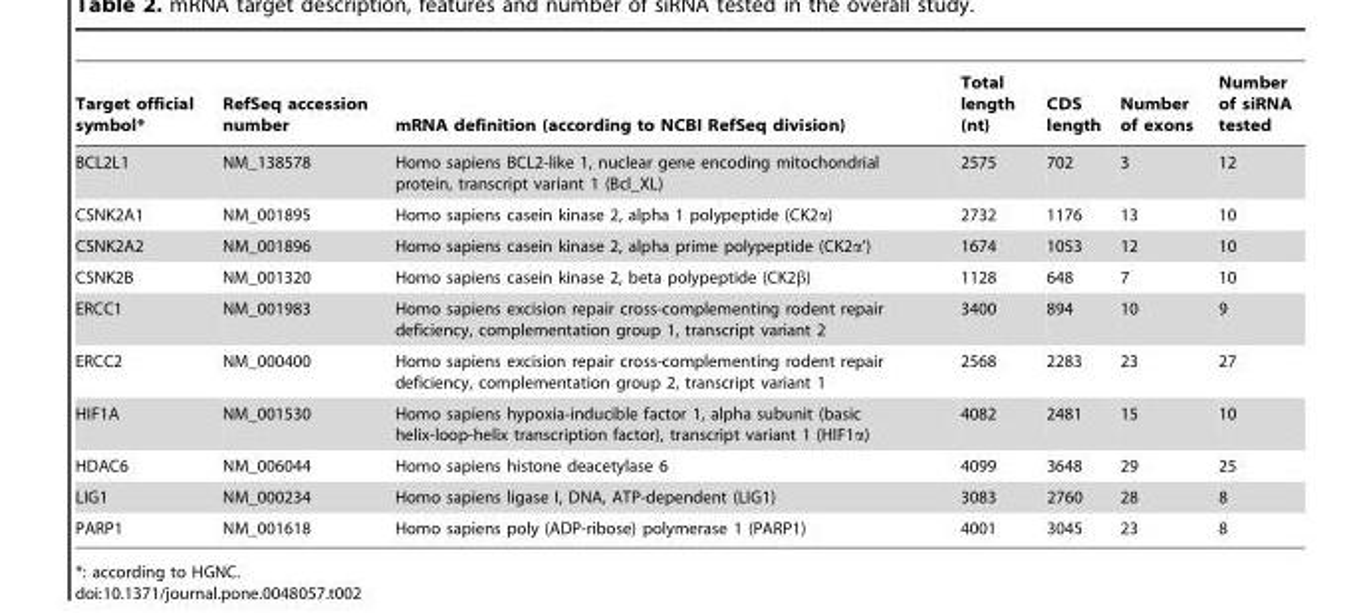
<table><thead><tr><td>Target official symbol*</td><td>RefSeq accession number</td><td>mRNA definition (according to NCBI RefSeq division)</td><td>Total length (nt)</td><td>CDS length</td><td>Number of exons</td><td>Number of siRNA tested</td></tr></thead><tbody><tr><td>BCL2L1</td><td>NM_138578</td><td>Homo sapiens BCL2-like 1, nuclear gene encoding mitochondrial protein, transcript variant 1 (Bcl_XL)</td><td>2575</td><td>702</td><td>3</td><td>12</td></tr><tr><td>CSNK2A1</td><td>NM_001895</td><td>Homo sapiens casein kinase 2, alpha 1 polypeptide (CK2α)</td><td>2732</td><td>1176</td><td>13</td><td>10</td></tr><tr><td>CSNK2A2</td><td>NM_001896</td><td>Homo sapiens casein kinase 2, alpha prime polypeptide (CK2α’)</td><td>1674</td><td>1053</td><td>12</td><td>10</td></tr><tr><td>CSNK2B</td><td>NM_001320</td><td>Homo sapiens casein kinase 2, beta polypeptide (CK2β)</td><td>1128</td><td>648</td><td>7</td><td>10</td></tr><tr><td>ERCC1</td><td>NM_001983</td><td>Homo sapiens excision repair cross-complementing rodent repair deficiency, complementation group 1, transcript variant 2</td><td>3400</td><td>894</td><td>10</td><td>9</td></tr><tr><td>ERCC2</td><td>NM_000400</td><td>Homo sapiens excision repair cross-complementing rodent repair deficiency, complementation group 2, transcript variant 1</td><td>2568</td><td>2283</td><td>23</td><td>27</td></tr><tr><td>HIF1A</td><td>NM_001530</td><td>Homo sapiens hypoxia-inducible factor 1, alpha subunit (basic helix-loop-helix transcription factor), transcript variant 1 (HIF1α)</td><td>4082</td><td>2481</td><td>15</td><td>10</td></tr><tr><td>HDAC6</td><td>NM_006044</td><td>Homo sapiens histone deacetylase 6</td><td>4099</td><td>3648</td><td>29</td><td>25</td></tr><tr><td>LIG1</td><td>NM_000234</td><td>Homo sapiens ligase I, DNA, ATP-dependent (LIG1)</td><td>3083</td><td>2760</td><td>28</td><td>8</td></tr><tr><td>PARP1</td><td>NM_001618</td><td>Homo sapiens poly (ADP-ribose) polymerase 1 (PARP1)</td><td>4001</td><td>3045</td><td>23</td><td>8</td></tr></tbody></table>